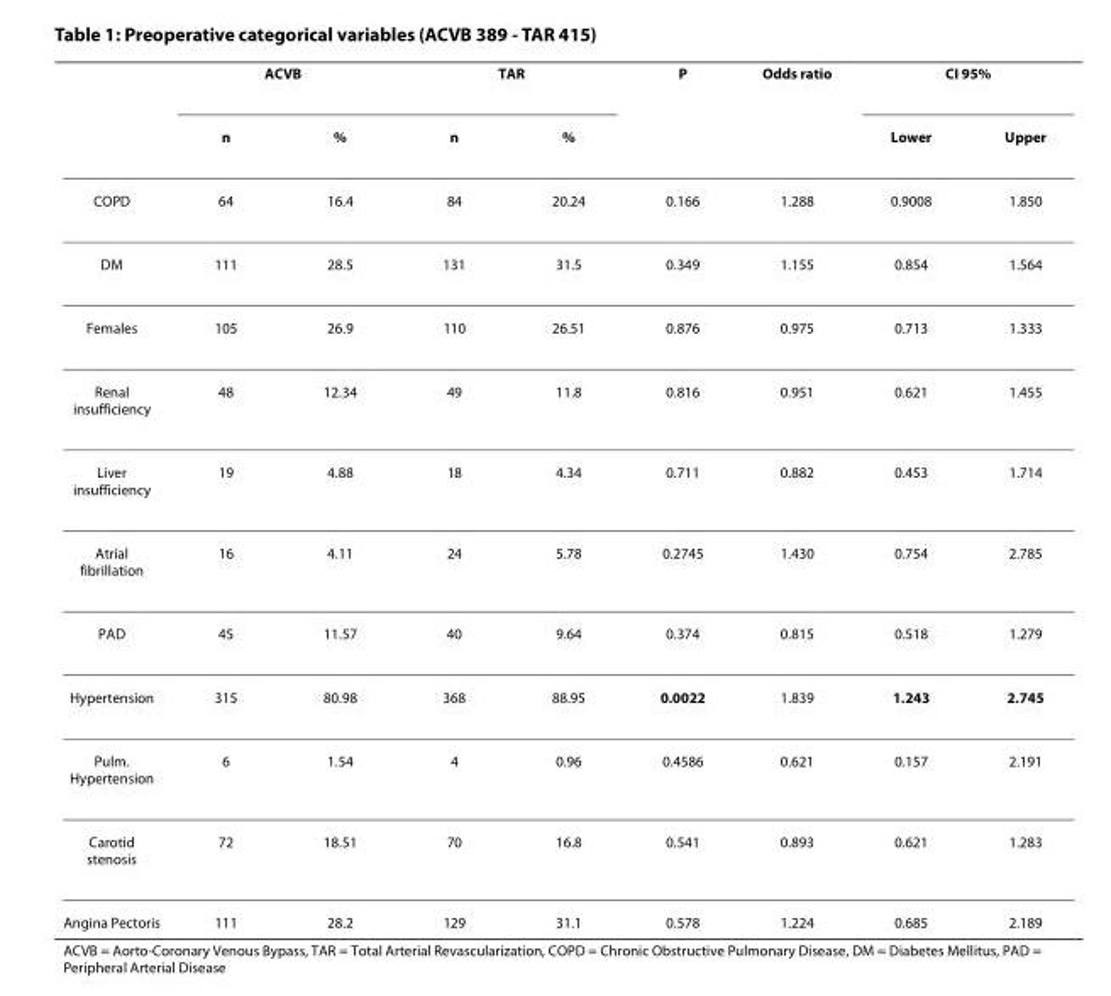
<table><thead><tr><td rowspan="2"></td><td colspan="2">ACVB</td><td colspan="2">TAR</td><td rowspan="2">P</td><td rowspan="2">Odds ratio</td><td colspan="2">CI 95%</td></tr><tr><td>n</td><td>%</td><td>n</td><td>%</td><td>Lower</td><td>Upper</td></tr></thead><tbody><tr><td>COPD</td><td>64</td><td>16.4</td><td>84</td><td>20.24</td><td>0.166</td><td>1.288</td><td>0.9008</td><td>1.850</td></tr><tr><td>DM</td><td>111</td><td>28.5</td><td>131</td><td>31.5</td><td>0.349</td><td>1.155</td><td>0.854</td><td>1.564</td></tr><tr><td>Females</td><td>105</td><td>26.9</td><td>110</td><td>26.51</td><td>0.876</td><td>0.975</td><td>0.713</td><td>1.333</td></tr><tr><td>Renal insufficiency</td><td>48</td><td>12.34</td><td>49</td><td>11.8</td><td>0.816</td><td>0.951</td><td>0.621</td><td>1.455</td></tr><tr><td>Liver insufficiency</td><td>19</td><td>4.88</td><td>18</td><td>4.34</td><td>0.711</td><td>0.882</td><td>0.453</td><td>1.714</td></tr><tr><td>Atrial fibrillation</td><td>16</td><td>4.11</td><td>24</td><td>5.78</td><td>0.2745</td><td>1.430</td><td>0.754</td><td>2.785</td></tr><tr><td>PAD</td><td>45</td><td>11.57</td><td>40</td><td>9.64</td><td>0.374</td><td>0.815</td><td>0.518</td><td>1.279</td></tr><tr><td>Hypertension</td><td>315</td><td>80.98</td><td>368</td><td>88.95</td><td>0.0022</td><td>1.839</td><td>1.243</td><td>2.745</td></tr><tr><td>Pulm. Hypertension</td><td>6</td><td>1.54</td><td>4</td><td>0.96</td><td>0.4586</td><td>0.621</td><td>0.157</td><td>2.191</td></tr><tr><td>Carotid stenosis</td><td>72</td><td>18.51</td><td>70</td><td>16.8</td><td>0.541</td><td>0.893</td><td>0.621</td><td>1.283</td></tr><tr><td>Angina Pectoris</td><td>111</td><td>28.2</td><td>129</td><td>31.1</td><td>0.578</td><td>1.224</td><td>0.685</td><td>2.189</td></tr></tbody></table>